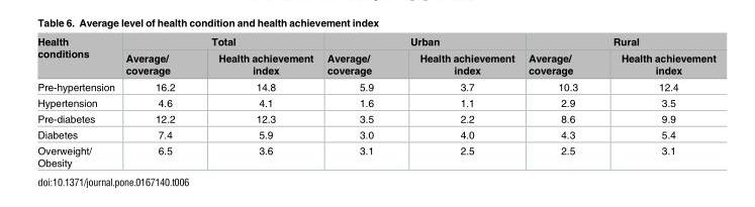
<table><thead><tr><td rowspan="2">Health conditions</td><td colspan="2">Total</td><td colspan="2">Urban</td><td colspan="2">Rural</td></tr><tr><td>Average/ coverage</td><td>Health achievement index</td><td>Average/ coverage</td><td>Health achievement index</td><td>Average/ coverage</td><td>Health achievement index</td></tr></thead><tbody><tr><td>Pre-hypertension</td><td>16.2</td><td>14.8</td><td>5.9</td><td>3.7</td><td>10.3</td><td>12.4</td></tr><tr><td>Hypertension</td><td>4.6</td><td>4.1</td><td>1.6</td><td>1.1</td><td>2.9</td><td>3.5</td></tr><tr><td>Pre-diabetes</td><td>12.2</td><td>12.3</td><td>3.5</td><td>2.2</td><td>8.6</td><td>9.9</td></tr><tr><td>Diabetes</td><td>7.4</td><td>5.9</td><td>3.0</td><td>4.0</td><td>4.3</td><td>5.4</td></tr><tr><td>Overweight/ Obesity</td><td>6.5</td><td>3.6</td><td>3.1</td><td>2.5</td><td>2.5</td><td>3.1</td></tr></tbody></table>